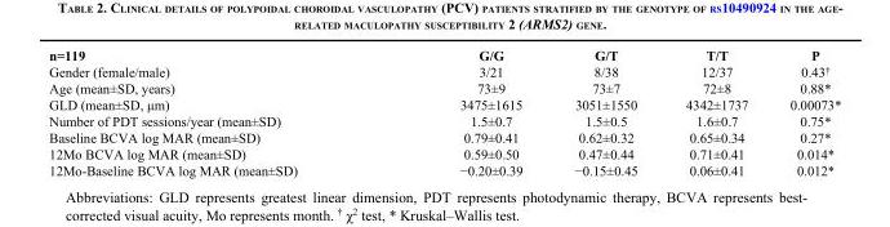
<table><thead><tr><td>n=119</td><td>G/G</td><td>G/T</td><td>T/T</td><td>P</td></tr></thead><tbody><tr><td>Gender (female/male)</td><td>3/21</td><td>8/38</td><td>12/37</td><td>0.43<sup>†</sup></td></tr><tr><td>Age (mean±SD, years)</td><td>73±9</td><td>73±7</td><td>72±8</td><td>0.88*</td></tr><tr><td>GLD (mean±SD, μm)</td><td>3475±1615</td><td>3051±1550</td><td>4342±1737</td><td>0.00073*</td></tr><tr><td>Number of PDT sessions/year (mean±SD)</td><td>1.5±0.7</td><td>1.5±0.5</td><td>1.6±0.7</td><td>0.75*</td></tr><tr><td>Baseline BCVA log MAR (mean±SD)</td><td>0.79±0.41</td><td>0.62±0.32</td><td>0.65±0.34</td><td>0.27*</td></tr><tr><td>12Mo BCVA log MAR (mean±SD)</td><td>0.59±0.50</td><td>0.47±0.44</td><td>0.71±0.41</td><td>0.014*</td></tr><tr><td>12Mo-Baseline BCVA log MAR (mean±SD)</td><td>−0.20±0.39</td><td>−0.15±0.45</td><td>0.06±0.41</td><td>0.012*</td></tr></tbody></table>